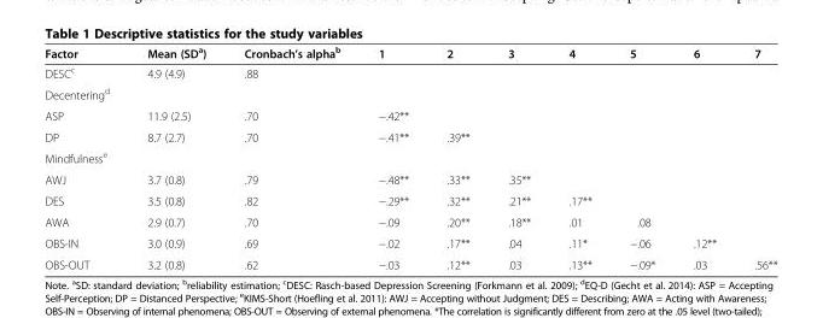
<table><thead><tr><td>Factor</td><td>Mean (SD<sup>a</sup>)</td><td>Cronbach’s alpha<sup>b</sup></td><td>1</td><td>2</td><td>3</td><td>4</td><td>5</td><td>6</td><td>7</td></tr></thead><tbody><tr><td>DESC<sup>c</sup></td><td>4.9 (4.9)</td><td>.88</td><td></td><td></td><td></td><td></td><td></td><td></td><td></td></tr><tr><td colspan="10">Decentering<sup>d</sup></td></tr><tr><td>ASP</td><td>11.9 (2.5)</td><td>.70</td><td>−.42**</td><td></td><td></td><td></td><td></td><td></td><td></td></tr><tr><td>DP</td><td>8.7 (2.7)</td><td>.70</td><td>−.41**</td><td>.39**</td><td></td><td></td><td></td><td></td><td></td></tr><tr><td colspan="10">Mindfulness<sup>e</sup></td></tr><tr><td>AWJ</td><td>3.7 (0.8)</td><td>.79</td><td>−.48**</td><td>.33**</td><td>.35**</td><td></td><td></td><td></td><td></td></tr><tr><td>DES</td><td>3.5 (0.8)</td><td>.82</td><td>−.29**</td><td>.32**</td><td>.21**</td><td>.17**</td><td></td><td></td><td></td></tr><tr><td>AWA</td><td>2.9 (0.7)</td><td>.70</td><td>−.09</td><td>.20**</td><td>.18**</td><td>.01</td><td>.08</td><td></td><td></td></tr><tr><td>OBS-IN</td><td>3.0 (0.9)</td><td>.69</td><td>−.02</td><td>.17**</td><td>.04</td><td>.11*</td><td>−.06</td><td>.12**</td><td></td></tr><tr><td>OBS-OUT</td><td>3.2 (0.8)</td><td>.62</td><td>−.03</td><td>.12**</td><td>.03</td><td>.13**</td><td>−.09*</td><td>.03</td><td>.56**</td></tr></tbody></table>